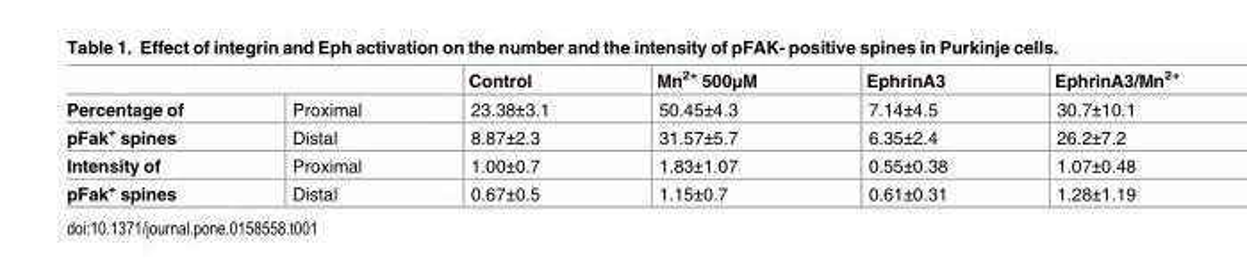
<table><thead><tr><td></td><td></td><td>Control</td><td>Mn<sup>2+</sup> 500μM</td><td>EphrinA3</td><td>EphrinA3/Mn<sup>2+</sup></td></tr></thead><tbody><tr><td>Percentage of</td><td>Proximal</td><td>23.38±3.1</td><td>50.45±4.3</td><td>7.14±4.5</td><td>30.7±10.1</td></tr><tr><td>pFak<sup>+</sup> spines</td><td>Distal</td><td>8.87±2.3</td><td>31.57±5.7</td><td>6.35±2.4</td><td>26.2±7.2</td></tr><tr><td>Intensity of</td><td>Proximal</td><td>1.00±0.7</td><td>1.83±1.07</td><td>0.55±0.38</td><td>1.07±0.48</td></tr><tr><td>pFak<sup>+</sup> spines</td><td>Distal</td><td>0.67±0.5</td><td>1.15±0.7</td><td>0.61±0.31</td><td>1.28±1.19</td></tr></tbody></table>